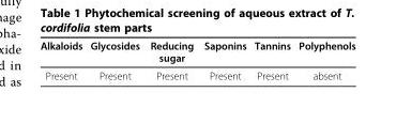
<table><thead><tr><td>Alkaloids</td><td>Glycosides</td><td>Reducing sugar</td><td>Saponins</td><td>Tannins</td><td>Polyphenols</td></tr></thead><tbody><tr><td>Present</td><td>Present</td><td>Present</td><td>Present</td><td>Present</td><td>absent</td></tr></tbody></table>